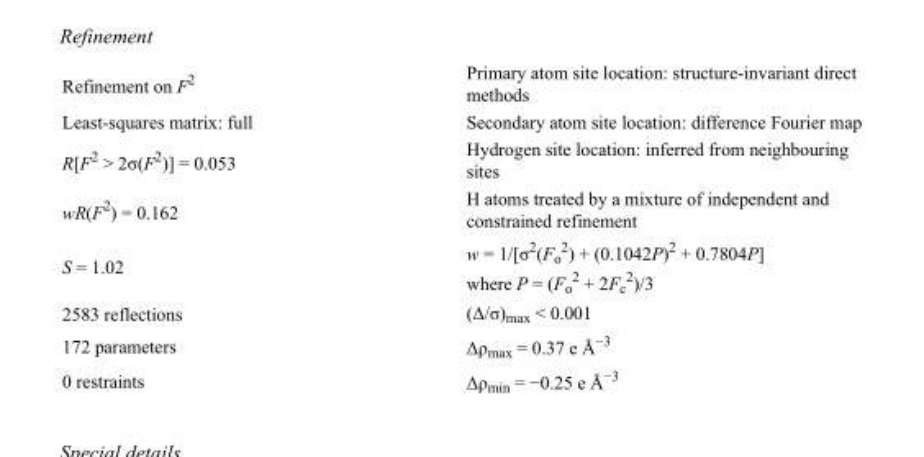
<table><tbody><tr><td>Refinement on F<sup>2</sup></td><td>Primary atom site location: structure-invariant direct methods</td></tr><tr><td>Least-squares matrix: full</td><td>Secondary atom site location: difference Fourier map</td></tr><tr><td>R[F<sup>2</sup> &gt; 2σ(F<sup>2</sup>)] = 0.053</td><td>Hydrogen site location: inferred from neighbouring sites</td></tr><tr><td>wR(F<sup>2</sup>) = 0.162</td><td>H atoms treated by a mixture of independent and constrained refinement</td></tr><tr><td>S = 1.02</td><td>w = 1/[σ<sup>2</sup>(F<sub>o</sub> <sup>2</sup>) + (0.1042P)<sup>2</sup> + 0.7804P] where P = (F<sub>o</sub> <sup>2</sup> + 2F<sub>c</sub> <sup>2</sup>)/3</td></tr><tr><td>2583 reflections</td><td>(Δ/σ)<sub>max</sub> &lt; 0.001</td></tr><tr><td>172 parameters</td><td>Δρ<sub>max</sub> = 0.37 e Å<sup>−3</sup></td></tr><tr><td>0 restraints</td><td>Δρ<sub>min</sub> = −0.25 e Å<sup>−3</sup></td></tr></tbody></table>